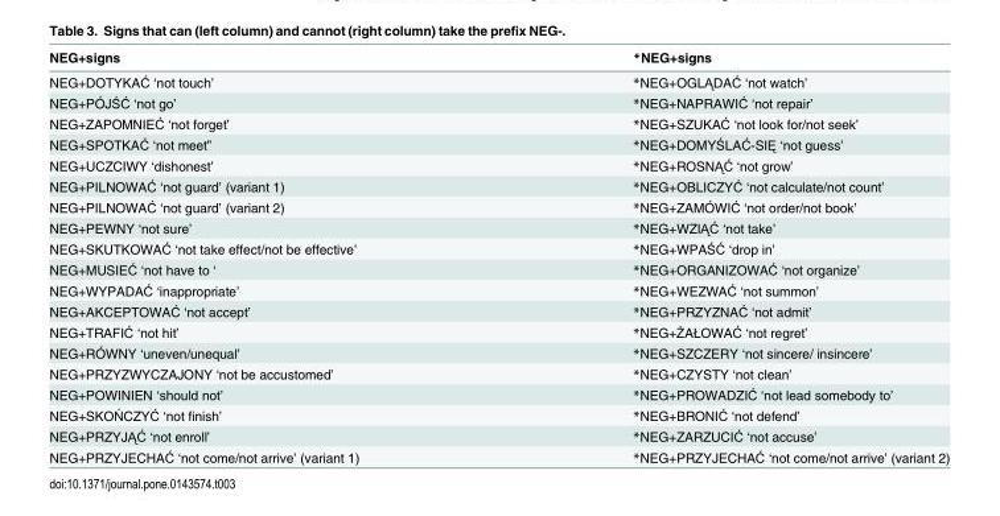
<table><thead><tr><td>NEG+signs</td><td>*NEG+signs</td></tr></thead><tbody><tr><td>NEG+DOTYKAĆ ‘not touch’</td><td>*NEG+OGLĄDAĆ ‘not watch’</td></tr><tr><td>NEG+PÓJŚĆ ‘not go’</td><td>*NEG+NAPRAWIĆ ‘not repair’</td></tr><tr><td>NEG+ZAPOMNIEĆ ‘not forget’</td><td>*NEG+SZUKAĆ ‘not look for/not seek’</td></tr><tr><td>NEG+SPOTKAĆ ‘not meet”</td><td>*NEG+DOMYŚLAĆ-SIĘ ‘not guess’</td></tr><tr><td>NEG+UCZCIWY ‘dishonest’</td><td>*NEG+ROSNĄĆ ‘not grow’</td></tr><tr><td>NEG+PILNOWAĆ ‘not guard’ (variant 1)</td><td>*NEG+OBLICZYĆ ‘not calculate/not count’</td></tr><tr><td>NEG+PILNOWAĆ ‘not guard’ (variant 2)</td><td>*NEG+ZAMÓWIĆ ‘not order/not book’</td></tr><tr><td>NEG+PEWNY ‘not sure’</td><td>*NEG+WZIĄĆ ‘not take’</td></tr><tr><td>NEG+SKUTKOWAĆ ‘not take effect/not be effective’</td><td>*NEG+WPAŚĆ ‘drop in’</td></tr><tr><td>NEG+MUSIEĆ ‘not have to ‘</td><td>*NEG+ORGANIZOWAĆ ‘not organize’</td></tr><tr><td>NEG+WYPADAĆ ‘inappropriate’</td><td>*NEG+WEZWAĆ ‘not summon’</td></tr><tr><td>NEG+AKCEPTOWAĆ ‘not accept’</td><td>*NEG+PRZYZNAĆ ‘not admit’</td></tr><tr><td>NEG+TRAFIĆ ‘not hit’</td><td>*NEG+ŻAŁOWAĆ ‘not regret’</td></tr><tr><td>NEG+RÓWNY ‘uneven/unequal’</td><td>*NEG+SZCZERY ‘not sincere/ insincere’</td></tr><tr><td>NEG+PRZYZWYCZAJONY ‘not be accustomed’</td><td>*NEG+CZYSTY ‘not clean’</td></tr><tr><td>NEG+POWINIEN ‘should not’</td><td>*NEG+PROWADZIĆ ‘not lead somebody to’</td></tr><tr><td>NEG+SKOŃCZYĆ ‘not finish’</td><td>*NEG+BRONIĆ ‘not defend’</td></tr><tr><td>NEG+PRZYJĄĆ ‘not enroll’</td><td>*NEG+ZARZUCIĆ ‘not accuse’</td></tr><tr><td>NEG+PRZYJECHAĆ ‘not come/not arrive’ (variant 1)</td><td>*NEG+PRZYJECHAĆ ‘not come/not arrive’ (variant 2)</td></tr></tbody></table>